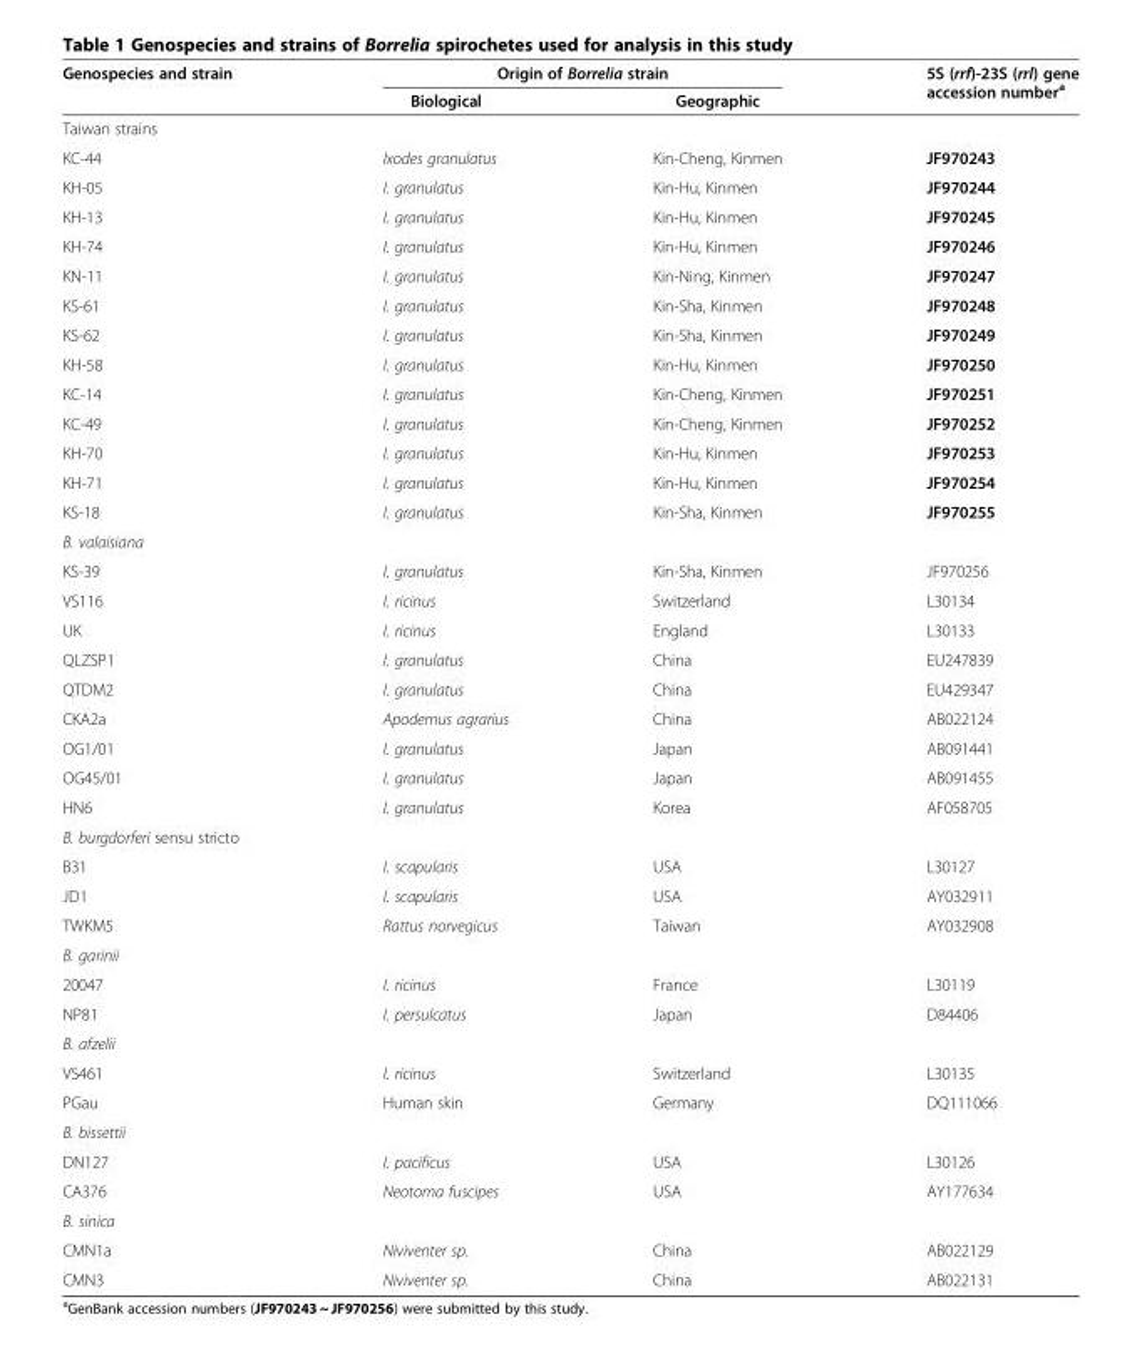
<table><thead><tr><td rowspan="2">Genospecies and strain</td><td colspan="2">Origin of Borrelia strain</td><td rowspan="2">5S (rrf)-23S (rrl) gene accession number<sup>a</sup></td></tr><tr><td>Biological</td><td>Geographic</td></tr></thead><tbody><tr><td colspan="4">Taiwan strains</td></tr><tr><td>KC-44</td><td>Ixodes granulatus</td><td>Kin-Cheng, Kinmen</td><td>JF970243</td></tr><tr><td>KH-05</td><td>I. granulatus</td><td>Kin-Hu, Kinmen</td><td>JF970244</td></tr><tr><td>KH-13</td><td>I. granulatus</td><td>Kin-Hu, Kinmen</td><td>JF970245</td></tr><tr><td>KH-74</td><td>I. granulatus</td><td>Kin-Hu, Kinmen</td><td>JF970246</td></tr><tr><td>KN-11</td><td>I. granulatus</td><td>Kin-Ning, Kinmen</td><td>JF970247</td></tr><tr><td>KS-61</td><td>I. granulatus</td><td>Kin-Sha, Kinmen</td><td>JF970248</td></tr><tr><td>KS-62</td><td>I. granulatus</td><td>Kin-Sha, Kinmen</td><td>JF970249</td></tr><tr><td>KH-58</td><td>I. granulatus</td><td>Kin-Hu, Kinmen</td><td>JF970250</td></tr><tr><td>KC-14</td><td>I. granulatus</td><td>Kin-Cheng, Kinmen</td><td>JF970251</td></tr><tr><td>KC-49</td><td>I. granulatus</td><td>Kin-Cheng, Kinmen</td><td>JF970252</td></tr><tr><td>KH-70</td><td>I. granulatus</td><td>Kin-Hu, Kinmen</td><td>JF970253</td></tr><tr><td>KH-71</td><td>I. granulatus</td><td>Kin-Hu, Kinmen</td><td>JF970254</td></tr><tr><td>KS-18</td><td>I. granulatus</td><td>Kin-Sha, Kinmen</td><td>JF970255</td></tr><tr><td colspan="4">B. valaisiana</td></tr><tr><td>KS-39</td><td>I. granulatus</td><td>Kin-Sha, Kinmen</td><td>JF970256</td></tr><tr><td>VS116</td><td>I. ricinus</td><td>Switzerland</td><td>L30134</td></tr><tr><td>UK</td><td>I. ricinus</td><td>England</td><td>L30133</td></tr><tr><td>QLZSP1</td><td>I. granulatus</td><td>China</td><td>EU247839</td></tr><tr><td>QTDM2</td><td>I. granulatus</td><td>China</td><td>EU429347</td></tr><tr><td>CKA2a</td><td>Apodemus agrarius</td><td>China</td><td>AB022124</td></tr><tr><td>OG1/01</td><td>I. granulatus</td><td>Japan</td><td>AB091441</td></tr><tr><td>OG45/01</td><td>I. granulatus</td><td>Japan</td><td>AB091455</td></tr><tr><td>HN6</td><td>I. granulatus</td><td>Korea</td><td>AF058705</td></tr><tr><td colspan="4">B. burgdorferi sensu stricto</td></tr><tr><td>B31</td><td>I. scapularis</td><td>USA</td><td>L30127</td></tr><tr><td>JD1</td><td>I. scapularis</td><td>USA</td><td>AY032911</td></tr><tr><td>TWKM5</td><td>Rattus norvegicus</td><td>Taiwan</td><td>AY032908</td></tr><tr><td colspan="4">B. garinii</td></tr><tr><td>20047</td><td>I. ricinus</td><td>France</td><td>L30119</td></tr><tr><td>NP81</td><td>I. persulcatus</td><td>Japan</td><td>D84406</td></tr><tr><td colspan="4">B. afzelii</td></tr><tr><td>VS461</td><td>I. ricinus</td><td>Switzerland</td><td>L30135</td></tr><tr><td>PGau</td><td>Human skin</td><td>Germany</td><td>DQ111066</td></tr><tr><td colspan="4">B. bissettii</td></tr><tr><td>DN127</td><td>I. pacificus</td><td>USA</td><td>L30126</td></tr><tr><td>CA376</td><td>Neotoma fuscipes</td><td>USA</td><td>AY177634</td></tr><tr><td colspan="4">B. sinica</td></tr><tr><td>CMN1a</td><td>Niviventer sp.</td><td>China</td><td>AB022129</td></tr><tr><td>CMN3</td><td>Niviventer sp.</td><td>China</td><td>AB022131</td></tr></tbody></table>